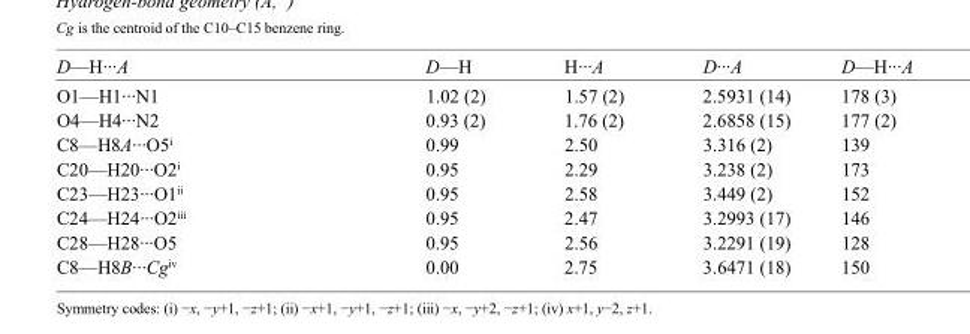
<table><tbody><tr><td>D—H···A</td><td>D—H</td><td>H···A</td><td>D···A</td><td>D—H···A</td></tr><tr><td>O1—H1···N1</td><td>1.02 (2)</td><td>1.57 (2)</td><td>2.5931 (14)</td><td>178 (3)</td></tr><tr><td>O4—H4···N2</td><td>0.93 (2)</td><td>1.76 (2)</td><td>2.6858 (15)</td><td>177 (2)</td></tr><tr><td>C8—H8A···O5<sup>i</sup></td><td>0.99</td><td>2.50</td><td>3.316 (2)</td><td>139</td></tr><tr><td>C20—H20···O2<sup>i</sup></td><td>0.95</td><td>2.29</td><td>3.238 (2)</td><td>173</td></tr><tr><td>C23—H23···O1<sup>ii</sup></td><td>0.95</td><td>2.58</td><td>3.449 (2)</td><td>152</td></tr><tr><td>C24—H24···O2<sup>iii</sup></td><td>0.95</td><td>2.47</td><td>3.2993 (17)</td><td>146</td></tr><tr><td>C28—H28···O5</td><td>0.95</td><td>2.56</td><td>3.2291 (19)</td><td>128</td></tr><tr><td>C8—H8B···Cg<sup>iv</sup></td><td>0.00</td><td>2.75</td><td>3.6471 (18)</td><td>150</td></tr></tbody></table>